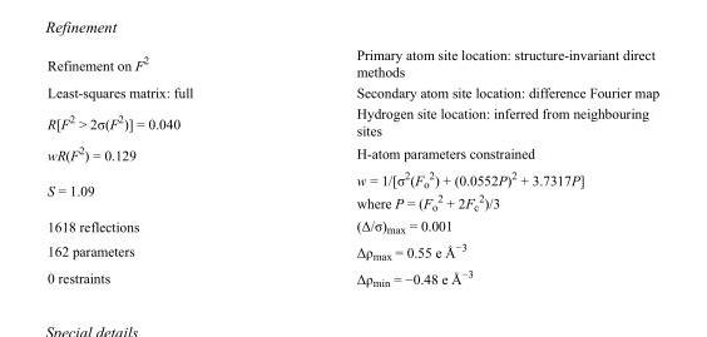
<table><tbody><tr><td>Refinement on F<sup>2</sup></td><td>Primary atom site location: structure-invariant direct methods</td></tr><tr><td>Least-squares matrix: full</td><td>Secondary atom site location: difference Fourier map</td></tr><tr><td>R[F<sup>2</sup> &gt; 2σ(F<sup>2</sup>)] = 0.040</td><td>Hydrogen site location: inferred from neighbouring sites</td></tr><tr><td>wR(F<sup>2</sup>) = 0.129</td><td>H-atom parameters constrained</td></tr><tr><td>S = 1.09</td><td>w = 1/[σ<sup>2</sup>(F<sub>o</sub> <sup>2</sup>) + (0.0552P)<sup>2</sup> + 3.7317P] where P = (F<sub>o</sub> <sup>2</sup> + 2F<sub>c</sub> <sup>2</sup>)/3</td></tr><tr><td>1618 reflections</td><td>(Δ/σ)<sub>max</sub> = 0.001</td></tr><tr><td>162 parameters</td><td>Δρ<sub>max</sub> = 0.55 e Å<sup>−3</sup></td></tr><tr><td>0 restraints</td><td>Δρ<sub>min</sub> = −0.48 e Å<sup>−3</sup></td></tr></tbody></table>